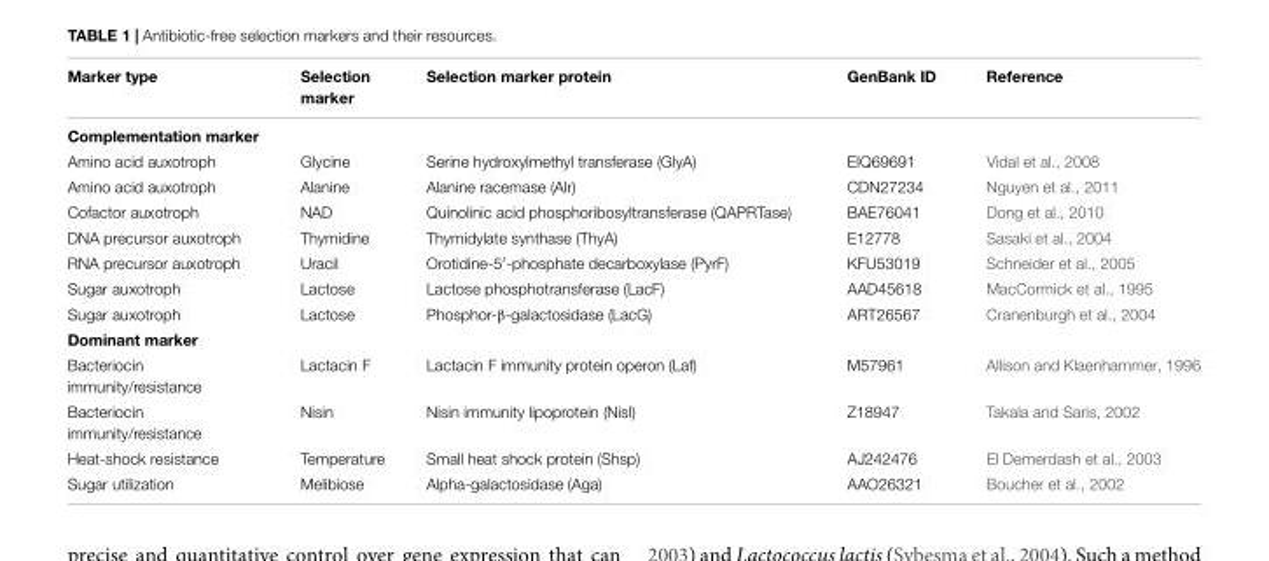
<table><thead><tr><td>Marker type</td><td>Selection marker</td><td>Selection marker protein</td><td>GenBank ID</td><td>Reference</td></tr></thead><tbody><tr><td colspan="5">Complementation marker</td></tr><tr><td>Amino acid auxotroph</td><td>Glycine</td><td>Serine hydroxylmethyl transferase (GlyA)</td><td>EIQ69691</td><td>Vidal et al., 2008</td></tr><tr><td>Amino acid auxotroph</td><td>Alanine</td><td>Alanine racemase (Alr)</td><td>CDN27234</td><td>Nguyen et al., 2011</td></tr><tr><td>Cofactor auxotroph</td><td>NAD</td><td>Quinolinic acid phosphoribosyltransferase (QAPRTase)</td><td>BAE76041</td><td>Dong et al., 2010</td></tr><tr><td>DNA precursor auxotroph</td><td>Thymidine</td><td>Thymidylate synthase (ThyA)</td><td>E12778</td><td>Sasaki et al., 2004</td></tr><tr><td>RNA precursor auxotroph</td><td>Uracil</td><td>Orotidine-5′-phosphate decarboxylase (PyrF)</td><td>KFU53019</td><td>Schneider et al., 2005</td></tr><tr><td>Sugar auxotroph</td><td>Lactose</td><td>Lactose phosphotransferase (LacF)</td><td>AAD45618</td><td>MacCormick et al., 1995</td></tr><tr><td>Sugar auxotroph</td><td>Lactose</td><td>Phosphor-β-galactosidase (LacG)</td><td>ART26567</td><td>Cranenburgh et al., 2004</td></tr><tr><td colspan="5">Dominant marker</td></tr><tr><td>Bacteriocin immunity/resistance</td><td>Lactacin F</td><td>Lactacin F immunity protein operon (Laf)</td><td>M57961</td><td>Allison and Klaenhammer, 1996</td></tr><tr><td>Bacteriocin immunity/resistance</td><td>Nisin</td><td>Nisin immunity lipoprotein (NisI)</td><td>Z18947</td><td>Takala and Saris, 2002</td></tr><tr><td>Heat-shock resistance</td><td>Temperature</td><td>Small heat shock protein (Shsp)</td><td>AJ242476</td><td>El Demerdash et al., 2003</td></tr><tr><td>Sugar utilization</td><td>Melibiose</td><td>Alpha-galactosidase (Aga)</td><td>AAO26321</td><td>Boucher et al., 2002</td></tr></tbody></table>